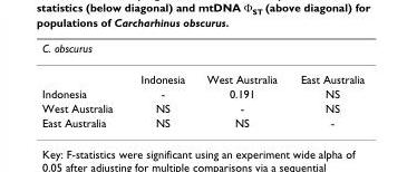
<table><thead><tr><td colspan="4">C. obscurus</td></tr><tr><td></td><td>Indonesia</td><td>West Australia</td><td>East Australia</td></tr></thead><tbody><tr><td>Indonesia</td><td>-</td><td>0.191</td><td>NS</td></tr><tr><td>West Australia</td><td>NS</td><td>-</td><td>NS</td></tr><tr><td>East Australia</td><td>NS</td><td>NS</td><td>-</td></tr></tbody></table>